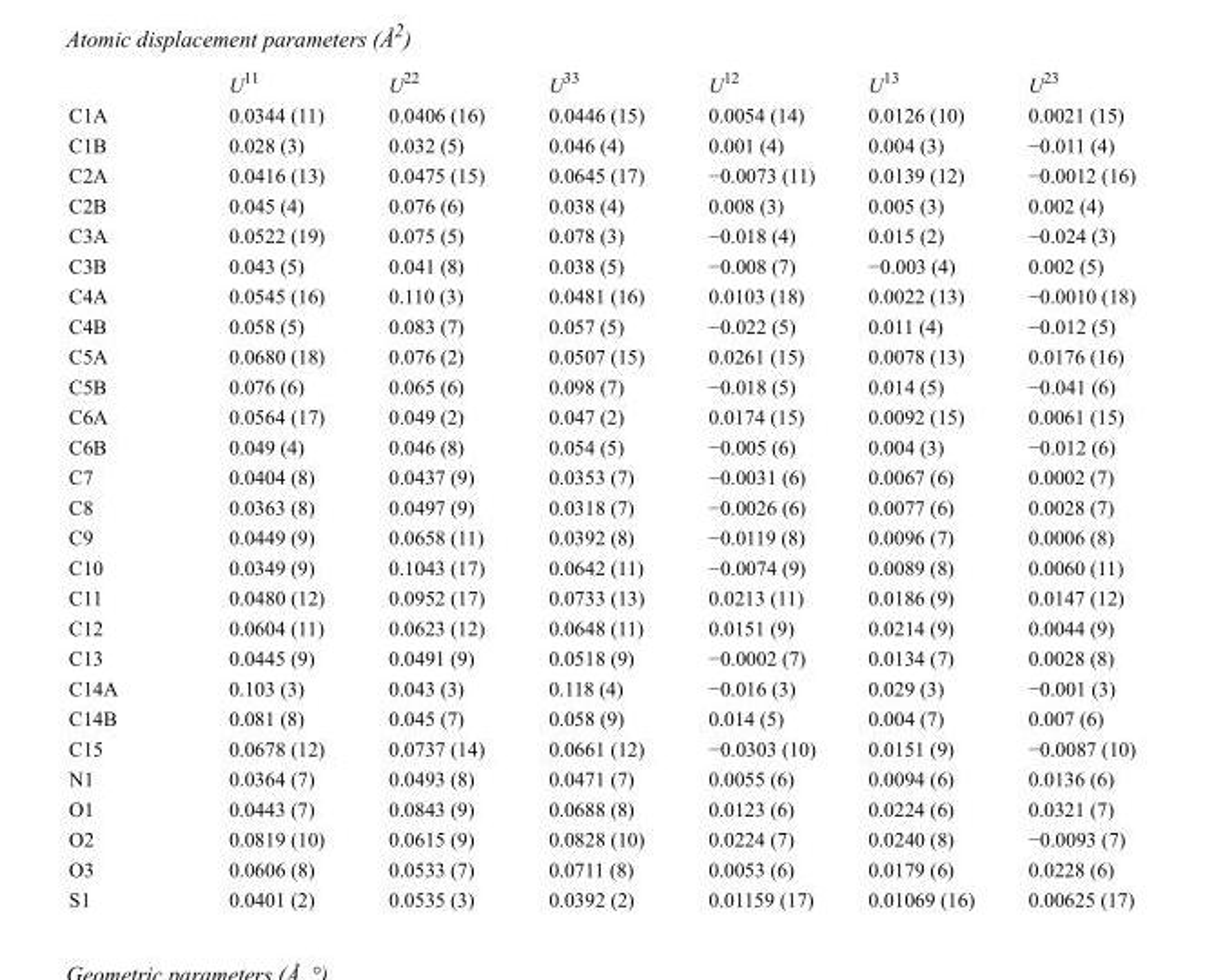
<table><thead><tr><td></td><td>U<sup>11</sup></td><td>U<sup>22</sup></td><td>U<sup>33</sup></td><td>U<sup>12</sup></td><td>U<sup>13</sup></td><td>U<sup>23</sup></td></tr></thead><tbody><tr><td>C1A</td><td>0.0344 (11)</td><td>0.0406 (16)</td><td>0.0446 (15)</td><td>0.0054 (14)</td><td>0.0126 (10)</td><td>0.0021 (15)</td></tr><tr><td>C1B</td><td>0.028 (3)</td><td>0.032 (5)</td><td>0.046 (4)</td><td>0.001 (4)</td><td>0.004 (3)</td><td>−0.011 (4)</td></tr><tr><td>C2A</td><td>0.0416 (13)</td><td>0.0475 (15)</td><td>0.0645 (17)</td><td>−0.0073 (11)</td><td>0.0139 (12)</td><td>−0.0012 (16)</td></tr><tr><td>C2B</td><td>0.045 (4)</td><td>0.076 (6)</td><td>0.038 (4)</td><td>0.008 (3)</td><td>0.005 (3)</td><td>0.002 (4)</td></tr><tr><td>C3A</td><td>0.0522 (19)</td><td>0.075 (5)</td><td>0.078 (3)</td><td>−0.018 (4)</td><td>0.015 (2)</td><td>−0.024 (3)</td></tr><tr><td>C3B</td><td>0.043 (5)</td><td>0.041 (8)</td><td>0.038 (5)</td><td>−0.008 (7)</td><td>−0.003 (4)</td><td>0.002 (5)</td></tr><tr><td>C4A</td><td>0.0545 (16)</td><td>0.110 (3)</td><td>0.0481 (16)</td><td>0.0103 (18)</td><td>0.0022 (13)</td><td>−0.0010 (18)</td></tr><tr><td>C4B</td><td>0.058 (5)</td><td>0.083 (7)</td><td>0.057 (5)</td><td>−0.022 (5)</td><td>0.011 (4)</td><td>−0.012 (5)</td></tr><tr><td>C5A</td><td>0.0680 (18)</td><td>0.076 (2)</td><td>0.0507 (15)</td><td>0.0261 (15)</td><td>0.0078 (13)</td><td>0.0176 (16)</td></tr><tr><td>C5B</td><td>0.076 (6)</td><td>0.065 (6)</td><td>0.098 (7)</td><td>−0.018 (5)</td><td>0.014 (5)</td><td>−0.041 (6)</td></tr><tr><td>C6A</td><td>0.0564 (17)</td><td>0.049 (2)</td><td>0.047 (2)</td><td>0.0174 (15)</td><td>0.0092 (15)</td><td>0.0061 (15)</td></tr><tr><td>C6B</td><td>0.049 (4)</td><td>0.046 (8)</td><td>0.054 (5)</td><td>−0.005 (6)</td><td>0.004 (3)</td><td>−0.012 (6)</td></tr><tr><td>C7</td><td>0.0404 (8)</td><td>0.0437 (9)</td><td>0.0353 (7)</td><td>−0.0031 (6)</td><td>0.0067 (6)</td><td>0.0002 (7)</td></tr><tr><td>C8</td><td>0.0363 (8)</td><td>0.0497 (9)</td><td>0.0318 (7)</td><td>−0.0026 (6)</td><td>0.0077 (6)</td><td>0.0028 (7)</td></tr><tr><td>C9</td><td>0.0449 (9)</td><td>0.0658 (11)</td><td>0.0392 (8)</td><td>−0.0119 (8)</td><td>0.0096 (7)</td><td>0.0006 (8)</td></tr><tr><td>C10</td><td>0.0349 (9)</td><td>0.1043 (17)</td><td>0.0642 (11)</td><td>−0.0074 (9)</td><td>0.0089 (8)</td><td>0.0060 (11)</td></tr><tr><td>C11</td><td>0.0480 (12)</td><td>0.0952 (17)</td><td>0.0733 (13)</td><td>0.0213 (11)</td><td>0.0186 (9)</td><td>0.0147 (12)</td></tr><tr><td>C12</td><td>0.0604 (11)</td><td>0.0623 (12)</td><td>0.0648 (11)</td><td>0.0151 (9)</td><td>0.0214 (9)</td><td>0.0044 (9)</td></tr><tr><td>C13</td><td>0.0445 (9)</td><td>0.0491 (9)</td><td>0.0518 (9)</td><td>−0.0002 (7)</td><td>0.0134 (7)</td><td>0.0028 (8)</td></tr><tr><td>C14A</td><td>0.103 (3)</td><td>0.043 (3)</td><td>0.118 (4)</td><td>−0.016 (3)</td><td>0.029 (3)</td><td>−0.001 (3)</td></tr><tr><td>C14B</td><td>0.081 (8)</td><td>0.045 (7)</td><td>0.058 (9)</td><td>0.014 (5)</td><td>0.004 (7)</td><td>0.007 (6)</td></tr><tr><td>C15</td><td>0.0678 (12)</td><td>0.0737 (14)</td><td>0.0661 (12)</td><td>−0.0303 (10)</td><td>0.0151 (9)</td><td>−0.0087 (10)</td></tr><tr><td>N1</td><td>0.0364 (7)</td><td>0.0493 (8)</td><td>0.0471 (7)</td><td>0.0055 (6)</td><td>0.0094 (6)</td><td>0.0136 (6)</td></tr><tr><td>O1</td><td>0.0443 (7)</td><td>0.0843 (9)</td><td>0.0688 (8)</td><td>0.0123 (6)</td><td>0.0224 (6)</td><td>0.0321 (7)</td></tr><tr><td>O2</td><td>0.0819 (10)</td><td>0.0615 (9)</td><td>0.0828 (10)</td><td>0.0224 (7)</td><td>0.0240 (8)</td><td>−0.0093 (7)</td></tr><tr><td>O3</td><td>0.0606 (8)</td><td>0.0533 (7)</td><td>0.0711 (8)</td><td>0.0053 (6)</td><td>0.0179 (6)</td><td>0.0228 (6)</td></tr><tr><td>S1</td><td>0.0401 (2)</td><td>0.0535 (3)</td><td>0.0392 (2)</td><td>0.01159 (17)</td><td>0.01069 (16)</td><td>0.00625 (17)</td></tr></tbody></table>